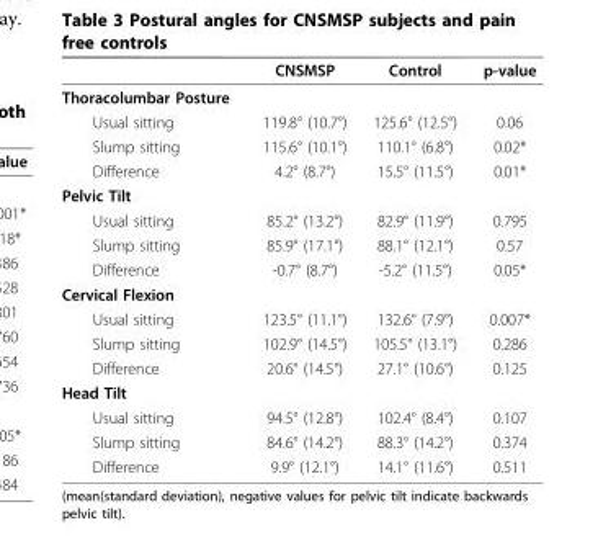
<table><thead><tr><td></td><td>CNSMSP</td><td>Control</td><td>p-value</td></tr></thead><tbody><tr><td colspan="4">Thoracolumbar Posture</td></tr><tr><td>Usual sitting</td><td>119.8° (10.7°)</td><td>125.6° (12.5°)</td><td>0.06</td></tr><tr><td>Slump sitting</td><td>115.6° (10.1°)</td><td>110.1° (6.8°)</td><td>0.02*</td></tr><tr><td>Difference</td><td>4.2° (8.7°)</td><td>15.5° (11.5°)</td><td>0.01*</td></tr><tr><td colspan="4">Pelvic Tilt</td></tr><tr><td>Usual sitting</td><td>85.2° (13.2°)</td><td>82.9° (11.9°)</td><td>0.795</td></tr><tr><td>Slump sitting</td><td>85.9° (17.1°)</td><td>88.1° (12.1°)</td><td>0.57</td></tr><tr><td>Difference</td><td>-0.7° (8.7°)</td><td>-5.2° (11.5°)</td><td>0.05*</td></tr><tr><td colspan="4">Cervical Flexion</td></tr><tr><td>Usual sitting</td><td>123.5° (11.1°)</td><td>132.6° (7.9°)</td><td>0.007*</td></tr><tr><td>Slump sitting</td><td>102.9° (14.5°)</td><td>105.5° (13.1°)</td><td>0.286</td></tr><tr><td>Difference</td><td>20.6° (14.5°)</td><td>27.1° (10.6°)</td><td>0.125</td></tr><tr><td colspan="4">Head Tilt</td></tr><tr><td>Usual sitting</td><td>94.5° (12.8°)</td><td>102.4° (8.4°)</td><td>0.107</td></tr><tr><td>Slump sitting</td><td>84.6° (14.2°)</td><td>88.3° (14.2°)</td><td>0.374</td></tr><tr><td>Difference</td><td>9.9° (12.1°)</td><td>14.1° (11.6°)</td><td>0.511</td></tr></tbody></table>